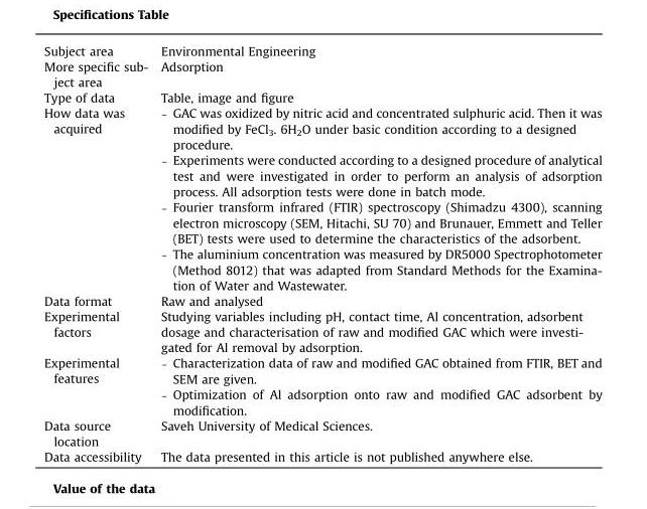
<table><tbody><tr><td>Subject area</td><td>Environmental Engineering</td></tr><tr><td>More specific sub- ject area</td><td>Adsorption</td></tr><tr><td>Type of data</td><td>Table, image and figure</td></tr><tr><td>How data was acquired</td><td>– GAC was oxidized by nitric acid and concentrated sulphuric acid. Then it was modified by FeCl3. 6H2O under basic condition according to a designed procedure. – Experiments were conducted according to a designed procedure of analytical test and were investigated in order to perform an analysis of adsorption process. All adsorption tests were done in batch mode. – Fourier transform infrared (FTIR) spectroscopy (Shimadzu 4300), scanning electron microscopy (SEM, Hitachi, SU 70) and Brunauer, Emmett and Teller (BET) tests were used to determine the characteristics of the adsorbent. – The aluminium concentration was measured by DR5000 Spectrophotometer (Method 8012) that was adapted from Standard Methods for the Examina- tion of Water and Wastewater.</td></tr><tr><td>Data format</td><td>Raw and analysed</td></tr><tr><td>Experimental factors</td><td>Studying variables including pH, contact time, Al concentration, adsorbent dosage and characterisation of raw and modified GAC which were investi- gated for Al removal by adsorption.</td></tr><tr><td>Experimental features</td><td>– Characterization data of raw and modified GAC obtained from FTIR, BET and SEM are given. – Optimization of Al adsorption onto raw and modified GAC adsorbent by modification.</td></tr><tr><td>Data source location</td><td>Saveh University of Medical Sciences.</td></tr><tr><td>Data accessibility</td><td>The data presented in this article is not published anywhere else.</td></tr></tbody></table>